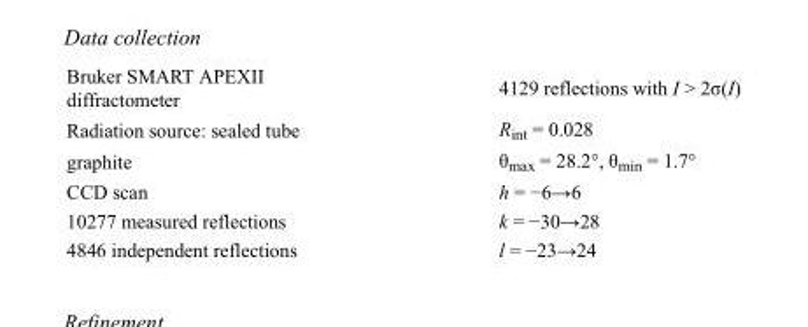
<table><tbody><tr><td>Bruker SMART APEXII diffractometer</td><td>4129 reflections with I &gt; 2σ(I)</td></tr><tr><td>Radiation source: sealed tube</td><td>R<sub>int</sub> = 0.028</td></tr><tr><td>graphite</td><td>θ<sub>max</sub> = 28.2°, θ<sub>min</sub> = 1.7°</td></tr><tr><td>CCD scan</td><td>h = −6→6</td></tr><tr><td>10277 measured reflections</td><td>k = −30→28</td></tr><tr><td>4846 independent reflections</td><td>l = −23→24</td></tr></tbody></table>